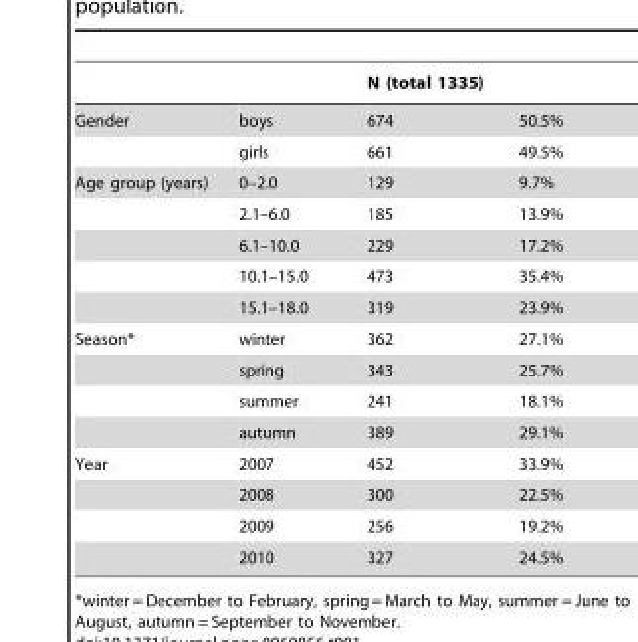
<table><thead><tr><td></td><td></td><td>N (total 1335)</td><td></td></tr></thead><tbody><tr><td rowspan="2">Gender</td><td>boys</td><td>674</td><td>50.5%</td></tr><tr><td>girls</td><td>661</td><td>49.5%</td></tr><tr><td rowspan="5">Age group (years)</td><td>0–2.0</td><td>129</td><td>9.7%</td></tr><tr><td>2.1–6.0</td><td>185</td><td>13.9%</td></tr><tr><td>6.1–10.0</td><td>229</td><td>17.2%</td></tr><tr><td>10.1–15.0</td><td>473</td><td>35.4%</td></tr><tr><td>15.1–18.0</td><td>319</td><td>23.9%</td></tr><tr><td rowspan="4">Season*</td><td>winter</td><td>362</td><td>27.1%</td></tr><tr><td>spring</td><td>343</td><td>25.7%</td></tr><tr><td>summer</td><td>241</td><td>18.1%</td></tr><tr><td>autumn</td><td>389</td><td>29.1%</td></tr><tr><td rowspan="4">Year</td><td>2007</td><td>452</td><td>33.9%</td></tr><tr><td>2008</td><td>300</td><td>22.5%</td></tr><tr><td>2009</td><td>256</td><td>19.2%</td></tr><tr><td>2010</td><td>327</td><td>24.5%</td></tr></tbody></table>